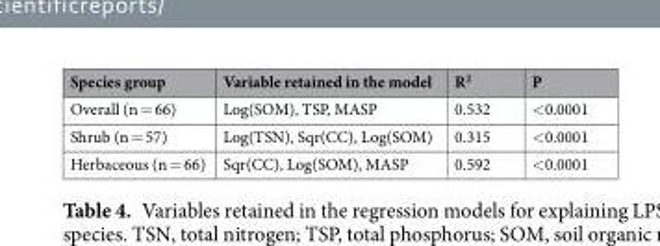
<table><thead><tr><td>Species group</td><td>Variable retained in the model</td><td>R<sup>2</sup></td><td>P</td></tr></thead><tbody><tr><td>Overall (n = 66)</td><td>Log(SOM), TSP, MASP</td><td>0.532</td><td>&lt;0.0001</td></tr><tr><td>Shrub (n = 57)</td><td>Log(TSN), Sqr(CC), Log(SOM)</td><td>0.315</td><td>&lt;0.0001</td></tr><tr><td>Herbaceous (n = 66)</td><td>Sqr(CC), Log(SOM), MASP</td><td>0.592</td><td>&lt;0.0001</td></tr></tbody></table>